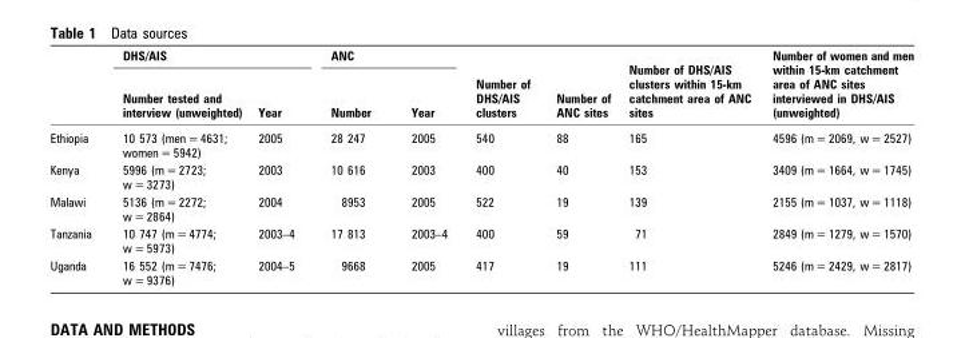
<table><thead><tr><td rowspan="2"></td><td colspan="2">DHS/AIS</td><td colspan="2">ANC</td><td rowspan="2">Number of DHS/AIS clusters</td><td rowspan="2">Number of ANC sites</td><td rowspan="2">Number of DHS/AIS clusters within 15-km catchment area of ANC sites</td><td rowspan="2">Number of women and men within 15-km catchment area of ANC sites interviewed in DHS/AIS (unweighted)</td></tr><tr><td>Number tested and interview (unweighted)</td><td>Year</td><td>Number</td><td>Year</td></tr></thead><tbody><tr><td>Ethiopia</td><td>10 573 (men = 4631; women = 5942)</td><td>2005</td><td>28 247</td><td>2005</td><td>540</td><td>88</td><td>165</td><td>4596 (m = 2069, w = 2527)</td></tr><tr><td>Kenya</td><td>5996 (m = 2723; w = 3273)</td><td>2003</td><td>10 616</td><td>2003</td><td>400</td><td>40</td><td>153</td><td>3409 (m = 1664, w = 1745)</td></tr><tr><td>Malawi</td><td>5136 (m = 2272; w = 2864)</td><td>2004</td><td>8953</td><td>2005</td><td>522</td><td>19</td><td>139</td><td>2155 (m = 1037, w = 1118)</td></tr><tr><td>Tanzania</td><td>10 747 (m = 4774; w = 5973)</td><td>2003–4</td><td>17 813</td><td>2003–4</td><td>400</td><td>59</td><td>71</td><td>2849 (m = 1279, w = 1570)</td></tr><tr><td>Uganda</td><td>16 552 (m = 7476; w = 9376)</td><td>2004–5</td><td>9668</td><td>2005</td><td>417</td><td>19</td><td>111</td><td>5246 (m = 2429, w = 2817)</td></tr></tbody></table>